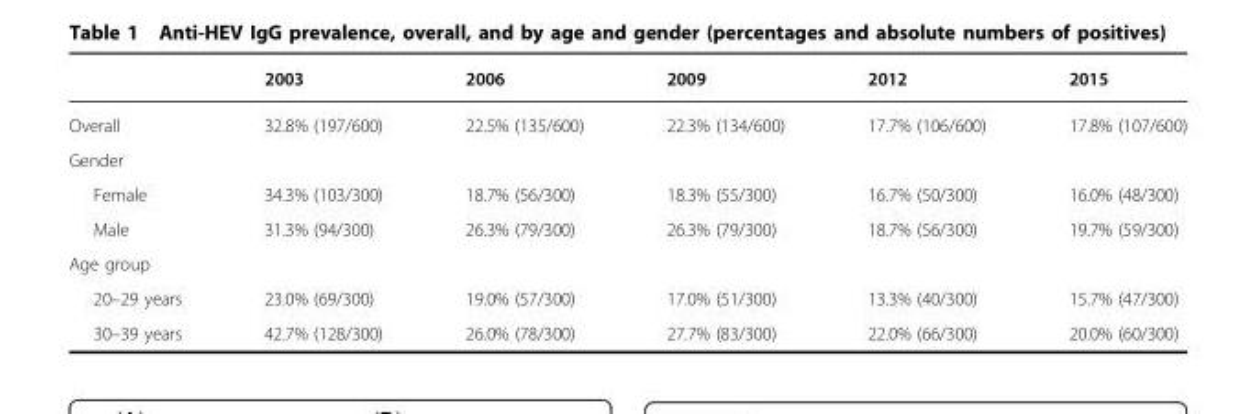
<table><thead><tr><td></td><td>2003</td><td>2006</td><td>2009</td><td>2012</td><td>2015</td></tr></thead><tbody><tr><td>Overall</td><td>32.8% (197/600)</td><td>22.5% (135/600)</td><td>22.3% (134/600)</td><td>17.7% (106/600)</td><td>17.8% (107/600)</td></tr><tr><td colspan="6">Gender</td></tr><tr><td>Female</td><td>34.3% (103/300)</td><td>18.7% (56/300)</td><td>18.3% (55/300)</td><td>16.7% (50/300)</td><td>16.0% (48/300)</td></tr><tr><td>Male</td><td>31.3% (94/300)</td><td>26.3% (79/300)</td><td>26.3% (79/300)</td><td>18.7% (56/300)</td><td>19.7% (59/300)</td></tr><tr><td colspan="6">Age group</td></tr><tr><td>20–29 years</td><td>23.0% (69/300)</td><td>19.0% (57/300)</td><td>17.0% (51/300)</td><td>13.3% (40/300)</td><td>15.7% (47/300)</td></tr><tr><td>30–39 years</td><td>42.7% (128/300)</td><td>26.0% (78/300)</td><td>27.7% (83/300)</td><td>22.0% (66/300)</td><td>20.0% (60/300)</td></tr></tbody></table>